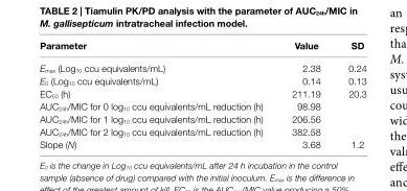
<table><thead><tr><td>Parameter</td><td>Value</td><td>sD</td></tr></thead><tbody><tr><td>E<sub>max</sub> (Log<sub>10</sub> ccu equivalents/mL)</td><td>2.38</td><td>0.24</td></tr><tr><td>E<sub>0</sub> (Log<sub>10</sub> ccu equivalents/mL)</td><td>0.14</td><td>0.13</td></tr><tr><td>EC<sub>50</sub> (h)</td><td>211.19</td><td>20.3</td></tr><tr><td>AUC<sub>24h</sub>/MIC for 0 log<sub>10</sub> ccu equivalents/mL reduction (h)</td><td>98.98</td><td></td></tr><tr><td>AUC<sub>24h</sub>/MIC for 1 log<sub>10</sub> ccu equivalents/mL reduction (h)</td><td>206.56</td><td></td></tr><tr><td>AUC<sub>24h</sub>/MIC for 2 log<sub>10</sub> ccu equivalents/mL reduction (h)</td><td>382.58</td><td></td></tr><tr><td>Slope (N)</td><td>3.68</td><td>1.2</td></tr></tbody></table>